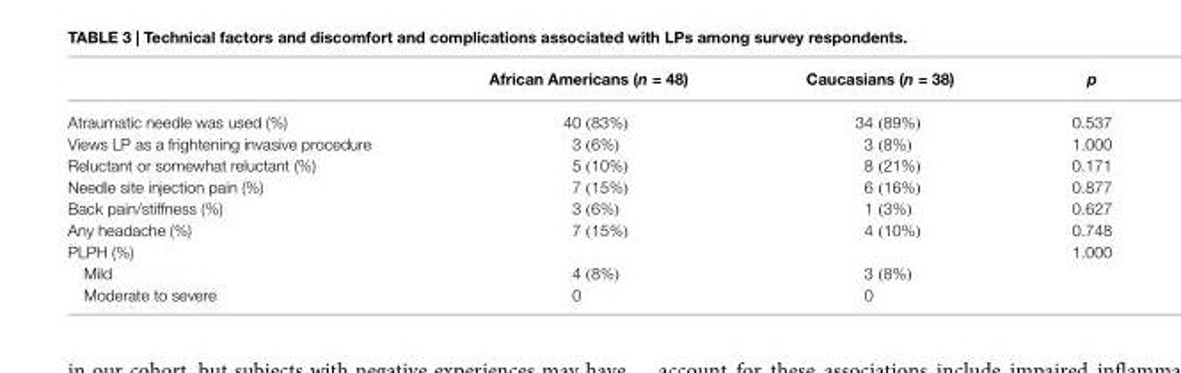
<table><thead><tr><td></td><td>African Americans (n = 48)</td><td>Caucasians (n = 38)</td><td>p</td></tr></thead><tbody><tr><td>Atraumatic needle was used (%)</td><td>40 (83%)</td><td>34 (89%)</td><td>0.537</td></tr><tr><td>Views LP as a frightening invasive procedure</td><td>3 (6%)</td><td>3 (8%)</td><td>1.000</td></tr><tr><td>Reluctant or somewhat reluctant (%)</td><td>5 (10%)</td><td>8 (21%)</td><td>0.171</td></tr><tr><td>Needle site injection pain (%)</td><td>7 (15%)</td><td>6 (16%)</td><td>0.877</td></tr><tr><td>Back pain/stiffness (%)</td><td>3 (6%)</td><td>1 (3%)</td><td>0.627</td></tr><tr><td>Any headache (%)</td><td>7 (15%)</td><td>4 (10%)</td><td>0.748</td></tr><tr><td>PLPH (%)</td><td></td><td></td><td>1.000</td></tr><tr><td>Mild</td><td>4 (8%)</td><td>3 (8%)</td><td></td></tr><tr><td>Moderate to severe</td><td>0</td><td>0</td><td></td></tr></tbody></table>